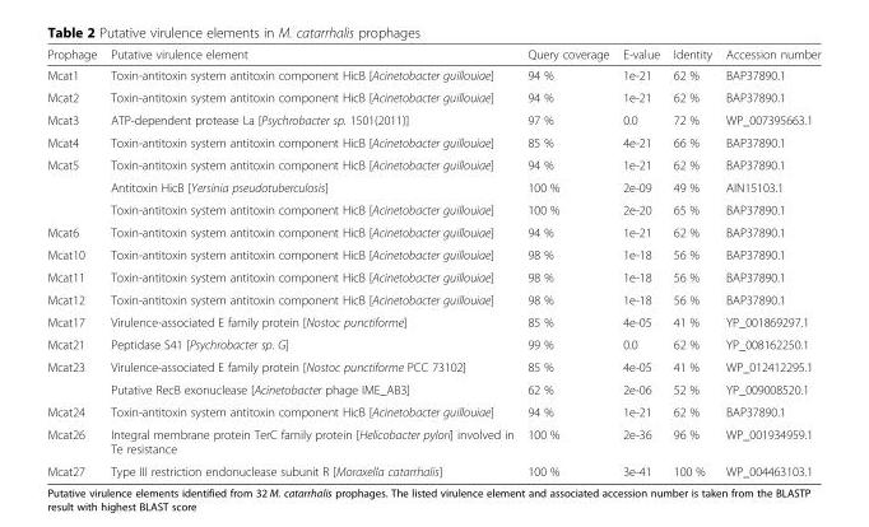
<table><thead><tr><td>Prophage</td><td>Putative virulence element</td><td>Query coverage</td><td>E-value</td><td>Identity</td><td>Accession number</td></tr></thead><tbody><tr><td>Mcat1</td><td>Toxin-antitoxin system antitoxin component HicB [Acinetobacter guillouiae]</td><td>94 %</td><td>1e-21</td><td>62 %</td><td>BAP37890.1</td></tr><tr><td>Mcat2</td><td>Toxin-antitoxin system antitoxin component HicB [Acinetobacter guillouiae]</td><td>94 %</td><td>1e-21</td><td>62 %</td><td>BAP37890.1</td></tr><tr><td>Mcat3</td><td>ATP-dependent protease La [Psychrobacter sp. 1501(2011)]</td><td>97 %</td><td>0.0</td><td>72 %</td><td>WP_007395663.1</td></tr><tr><td>Mcat4</td><td>Toxin-antitoxin system antitoxin component HicB [Acinetobacter guillouiae]</td><td>85 %</td><td>4e-21</td><td>66 %</td><td>BAP37890.1</td></tr><tr><td rowspan="3">Mcat5</td><td>Toxin-antitoxin system antitoxin component HicB [Acinetobacter guillouiae]</td><td>94 %</td><td>1e-21</td><td>62 %</td><td>BAP37890.1</td></tr><tr><td>Antitoxin HicB [Yersinia pseudotuberculosis]</td><td>100 %</td><td>2e-09</td><td>49 %</td><td>AIN15103.1</td></tr><tr><td>Toxin-antitoxin system antitoxin component HicB [Acinetobacter guillouiae]</td><td>100 %</td><td>2e-20</td><td>65 %</td><td>BAP37890.1</td></tr><tr><td>Mcat6</td><td>Toxin-antitoxin system antitoxin component HicB [Acinetobacter guillouiae]</td><td>94 %</td><td>1e-21</td><td>62 %</td><td>BAP37890.1</td></tr><tr><td>Mcat10</td><td>Toxin-antitoxin system antitoxin component HicB [Acinetobacter guillouiae]</td><td>98 %</td><td>1e-18</td><td>56 %</td><td>BAP37890.1</td></tr><tr><td>Mcat11</td><td>Toxin-antitoxin system antitoxin component HicB [Acinetobacter guillouiae]</td><td>98 %</td><td>1e-18</td><td>56 %</td><td>BAP37890.1</td></tr><tr><td>Mcat12</td><td>Toxin-antitoxin system antitoxin component HicB [Acinetobacter guillouiae]</td><td>98 %</td><td>1e-18</td><td>56 %</td><td>BAP37890.1</td></tr><tr><td>Mcat17</td><td>Virulence-associated E family protein [Nostoc punctiforme]</td><td>85 %</td><td>4e-05</td><td>41 %</td><td>YP_001869297.1</td></tr><tr><td>Mcat21</td><td>Peptidase S41 [Psychrobacter sp. G]</td><td>99 %</td><td>0.0</td><td>62 %</td><td>YP_008162250.1</td></tr><tr><td rowspan="2">Mcat23</td><td>Virulence-associated E family protein [Nostoc punctiforme PCC 73102]</td><td>85 %</td><td>4e-05</td><td>41 %</td><td>WP_012412295.1</td></tr><tr><td>Putative RecB exonuclease [Acinetobacter phage IME_AB3]</td><td>62 %</td><td>2e-06</td><td>52 %</td><td>YP_009008520.1</td></tr><tr><td>Mcat24</td><td>Toxin-antitoxin system antitoxin component HicB [Acinetobacter guillouiae]</td><td>94 %</td><td>1e-21</td><td>62 %</td><td>BAP37890.1</td></tr><tr><td>Mcat26</td><td>Integral membrane protein TerC family protein [Helicobacter pylori] involved in Te resistance</td><td>100 %</td><td>2e-36</td><td>96 %</td><td>WP_001934959.1</td></tr><tr><td>Mcat27</td><td>Type III restriction endonuclease subunit R [Moraxella catarrhalis]</td><td>100 %</td><td>3e-41</td><td>100 %</td><td>WP_004463103.1</td></tr></tbody></table>